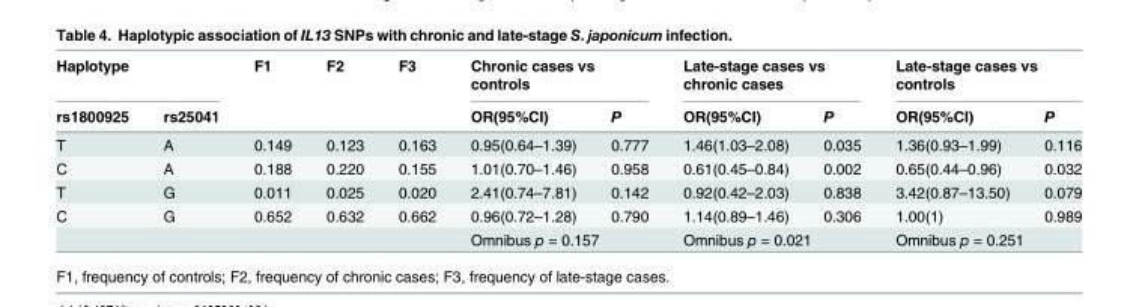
<table><thead><tr><td colspan="2">Haplotype</td><td rowspan="2">F1</td><td rowspan="2">F2</td><td rowspan="2">F3</td><td colspan="2">Chronic cases vs controls</td><td colspan="2">Late-stage cases vs chronic cases</td><td colspan="2">Late-stage cases vs controls</td></tr><tr><td>rs1800925</td><td>rs25041</td><td>OR(95%CI)</td><td>P</td><td>OR(95%CI)</td><td>P</td><td>OR(95%CI)</td><td>P</td></tr></thead><tbody><tr><td>T</td><td>A</td><td>0.149</td><td>0.123</td><td>0.163</td><td>0.95(0.64–1.39)</td><td>0.777</td><td>1.46(1.03–2.08)</td><td>0.035</td><td>1.36(0.93–1.99)</td><td>0.116</td></tr><tr><td>C</td><td>A</td><td>0.188</td><td>0.220</td><td>0.155</td><td>1.01(0.70–1.46)</td><td>0.958</td><td>0.61(0.45–0.84)</td><td>0.002</td><td>0.65(0.44–0.96)</td><td>0.032</td></tr><tr><td>T</td><td>G</td><td>0.011</td><td>0.025</td><td>0.020</td><td>2.41(0.74–7.81)</td><td>0.142</td><td>0.92(0.42–2.03)</td><td>0.838</td><td>3.42(0.87–13.50)</td><td>0.079</td></tr><tr><td rowspan="2">C</td><td>G</td><td>0.652</td><td>0.632</td><td>0.662</td><td>0.96(0.72–1.28)</td><td>0.790</td><td>1.14(0.89–1.46)</td><td>0.306</td><td>1.00(1)</td><td>0.989</td></tr><tr><td></td><td></td><td></td><td></td><td colspan="2">Omnibus p = 0.157</td><td colspan="2">Omnibus p = 0.021</td><td colspan="2">Omnibus p = 0.251</td></tr></tbody></table>